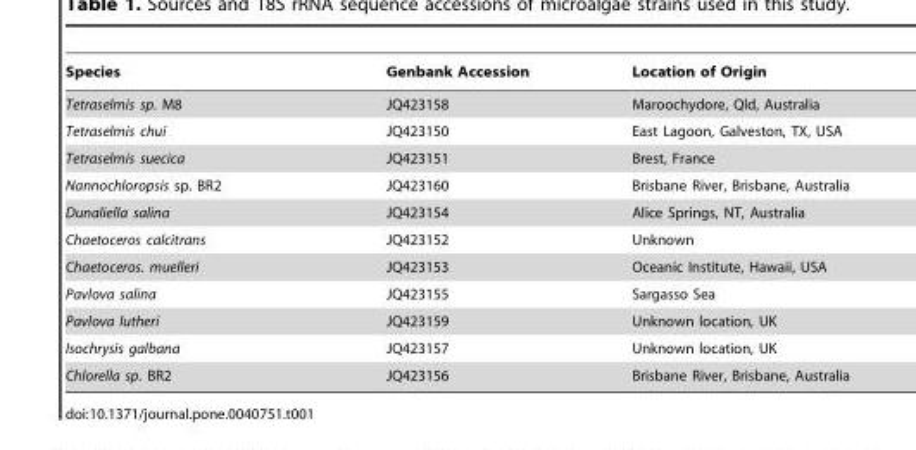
<table><thead><tr><td>Species</td><td>Genbank Accession</td><td>Location of Origin</td></tr></thead><tbody><tr><td>Tetraselmis sp. M8</td><td>JQ423158</td><td>Maroochydore, Qld, Australia</td></tr><tr><td>Tetraselmis chui</td><td>JQ423150</td><td>East Lagoon, Galveston, TX, USA</td></tr><tr><td>Tetraselmis suecica</td><td>JQ423151</td><td>Brest, France</td></tr><tr><td>Nannochloropsis sp. BR2</td><td>JQ423160</td><td>Brisbane River, Brisbane, Australia</td></tr><tr><td>Dunaliella salina</td><td>JQ423154</td><td>Alice Springs, NT, Australia</td></tr><tr><td>Chaetoceros calcitrans</td><td>JQ423152</td><td>Unknown</td></tr><tr><td>Chaetoceros. muelleri</td><td>JQ423153</td><td>Oceanic Institute, Hawaii, USA</td></tr><tr><td>Pavlova salina</td><td>JQ423155</td><td>Sargasso Sea</td></tr><tr><td>Pavlova lutheri</td><td>JQ423159</td><td>Unknown location, UK</td></tr><tr><td>Isochrysis galbana</td><td>JQ423157</td><td>Unknown location, UK</td></tr><tr><td>Chlorella sp. BR2</td><td>JQ423156</td><td>Brisbane River, Brisbane, Australia</td></tr></tbody></table>